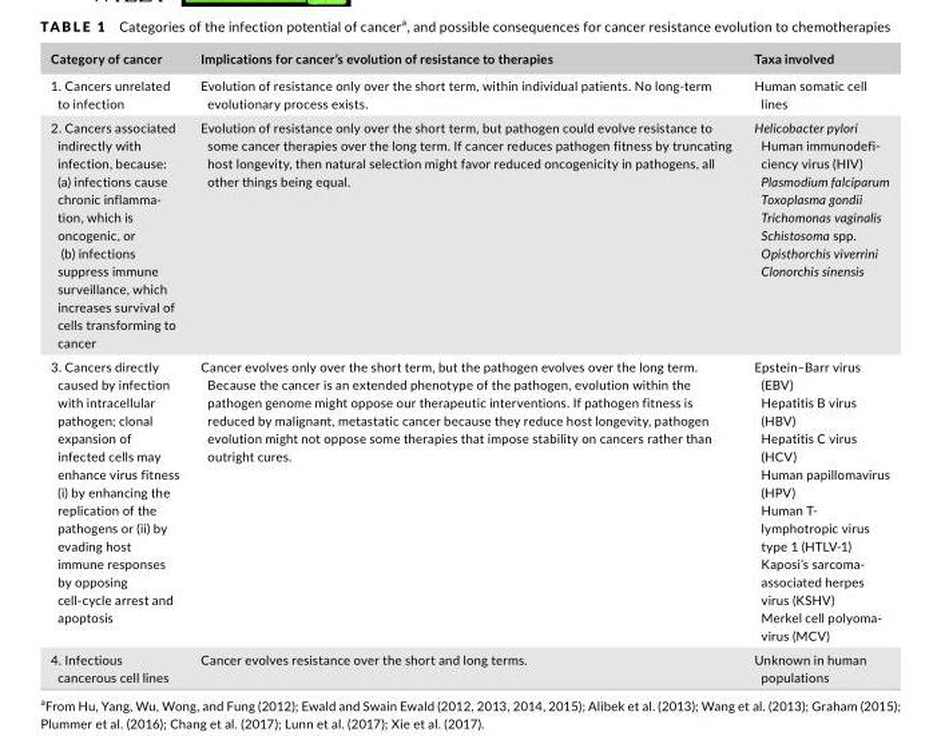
<table><thead><tr><td>Category of cancer</td><td>Implications for cancer’s evolution of resistance to therapies</td><td>Taxa involved</td></tr></thead><tbody><tr><td>1. Cancers unrelated to infection</td><td>Evolution of resistance only over the short term, within individual patients. No long- term evolutionary process exists.</td><td>Human somatic cell lines</td></tr><tr><td>2. Cancers associated indirectly with infection, because: (a) infections cause chronic inflamma- tion, which is oncogenic, or (b) infections suppress immune surveillance, which increases survival of cells transforming to cancer</td><td>Evolution of resistance only over the short term, but pathogen could evolve resistance to some cancer therapies over the long term. If cancer reduces pathogen fitness by truncating host longevity, then natural selection might favor reduced oncogenicity in pathogens, all other things being equal.</td><td>Helicobacter pylori Human immunodefi- ciency virus (HIV) Plasmodium falciparum Toxoplasma gondii Trichomonas vaginalis Schistosoma spp. Opisthorchis viverrini Clonorchis sinensis</td></tr><tr><td>3. Cancers directly caused by infection with intracellular pathogen; clonal expansion of infected cells may enhance virus fitness (i) by enhancing the replication of the pathogens or (ii) by evading host immune responses by opposing cell- cycle arrest and apoptosis</td><td>Cancer evolves only over the short term, but the pathogen evolves over the long term. Because the cancer is an extended phenotype of the pathogen, evolution within the pathogen genome might oppose our therapeutic interventions. If pathogen fitness is reduced by malignant, metastatic cancer because they reduce host longevity, pathogen evolution might not oppose some therapies that impose stability on cancers rather than outright cures.</td><td>Epstein–Barr virus (EBV) Hepatitis B virus (HBV) Hepatitis C virus (HCV) Human papillomavirus (HPV) Human T- lymphotropic virus type 1 (HTLV- 1) Kaposi’s sarcoma- associated herpes virus (KSHV) Merkel cell polyoma- virus (MCV)</td></tr><tr><td>4. Infectious cancerous cell lines</td><td>Cancer evolves resistance over the short and long terms.</td><td>Unknown in human populations</td></tr></tbody></table>